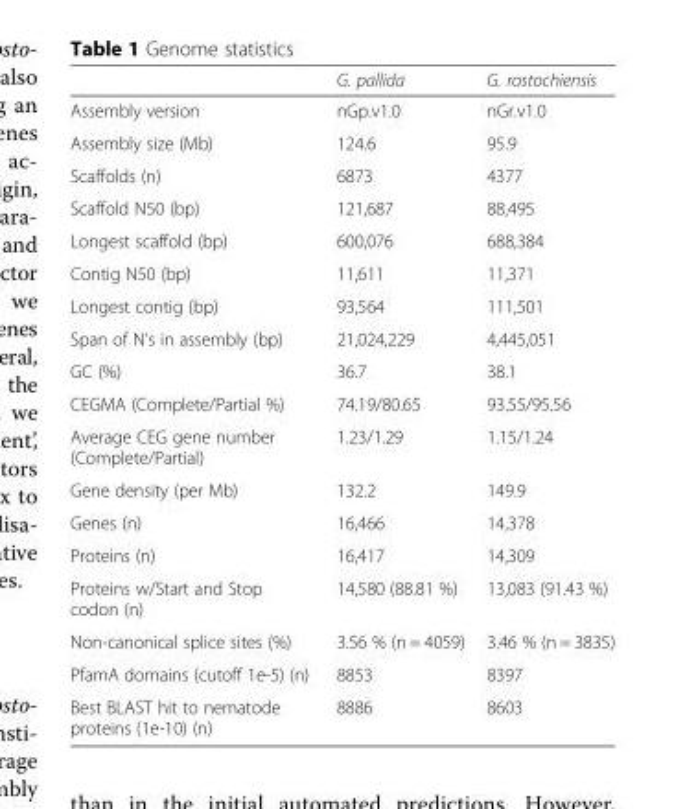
<table><thead><tr><td></td><td>G. pallida</td><td>G. rostochiensis</td></tr></thead><tbody><tr><td>Assembly version</td><td>nGp.v1.0</td><td>nGr.v1.0</td></tr><tr><td>Assembly size (Mb)</td><td>124.6</td><td>95.9</td></tr><tr><td>Scaffolds (n)</td><td>6873</td><td>4377</td></tr><tr><td>Scaffold N50 (bp)</td><td>121,687</td><td>88,495</td></tr><tr><td>Longest scaffold (bp)</td><td>600,076</td><td>688,384</td></tr><tr><td>Contig N50 (bp)</td><td>11,611</td><td>11,371</td></tr><tr><td>Longest contig (bp)</td><td>93,564</td><td>111,501</td></tr><tr><td>Span of N’s in assembly (bp)</td><td>21,024,229</td><td>4,445,051</td></tr><tr><td>GC (%)</td><td>36.7</td><td>38.1</td></tr><tr><td>CEGMA (Complete/Partial %)</td><td>74.19/80.65</td><td>93.55/95.56</td></tr><tr><td>Average CEG gene number (Complete/Partial)</td><td>1.23/1.29</td><td>1.15/1.24</td></tr><tr><td>Gene density (per Mb)</td><td>132.2</td><td>149.9</td></tr><tr><td>Genes (n)</td><td>16,466</td><td>14,378</td></tr><tr><td>Proteins (n)</td><td>16,417</td><td>14,309</td></tr><tr><td>Proteins w/Start and Stop codon (n)</td><td>14,580 (88.81 %)</td><td>13,083 (91.43 %)</td></tr><tr><td>Non-canonical splice sites (%)</td><td>3.56 % (n = 4059)</td><td>3.46 % (n = 3835)</td></tr><tr><td>PfamA domains (cutoff 1e-5) (n)</td><td>8853</td><td>8397</td></tr><tr><td>Best BLAST hit to nematode proteins (1e-10) (n)</td><td>8886</td><td>8603</td></tr></tbody></table>